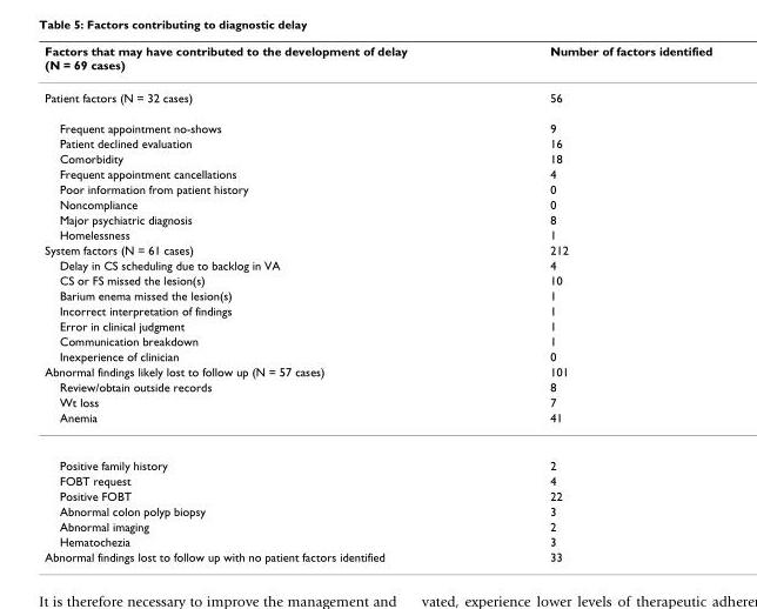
<table><thead><tr><td>Factors that may have contributed to the development of delay (N = 69 cases)</td><td>Number of factors identified</td></tr></thead><tbody><tr><td>Patient factors (N = 32 cases)</td><td>56</td></tr><tr><td>Frequent appointment no-shows</td><td>9</td></tr><tr><td>Patient declined evaluation</td><td>16</td></tr><tr><td>Comorbidity</td><td>18</td></tr><tr><td>Frequent appointment cancellations</td><td>4</td></tr><tr><td>Poor information from patient history</td><td>0</td></tr><tr><td>Noncompliance</td><td>0</td></tr><tr><td>Major psychiatric diagnosis</td><td>8</td></tr><tr><td>Homelessness</td><td>1</td></tr><tr><td>System factors (N = 61 cases)</td><td>212</td></tr><tr><td>Delay in CS scheduling due to backlog in VA</td><td>4</td></tr><tr><td>CS or FS missed the lesion(s)</td><td>10</td></tr><tr><td>Barium enema missed the lesion(s)</td><td>1</td></tr><tr><td>Incorrect interpretation of findings</td><td>1</td></tr><tr><td>Error in clinical judgment</td><td>1</td></tr><tr><td>Communication breakdown</td><td>1</td></tr><tr><td>Inexperience of clinician</td><td>0</td></tr><tr><td>Abnormal findings likely lost to follow up (N = 57 cases)</td><td>101</td></tr><tr><td>Review/obtain outside records</td><td>8</td></tr><tr><td>Wt loss</td><td>7</td></tr><tr><td>Anemia</td><td>41</td></tr><tr><td>Positive family history</td><td>2</td></tr><tr><td>FOBT request</td><td>4</td></tr><tr><td>Positive FOBT</td><td>22</td></tr><tr><td>Abnormal colon polyp biopsy</td><td>3</td></tr><tr><td>Abnormal imaging</td><td>2</td></tr><tr><td>Hematochezia</td><td>3</td></tr><tr><td>Abnormal findings lost to follow up with no patient factors identified</td><td>33</td></tr></tbody></table>